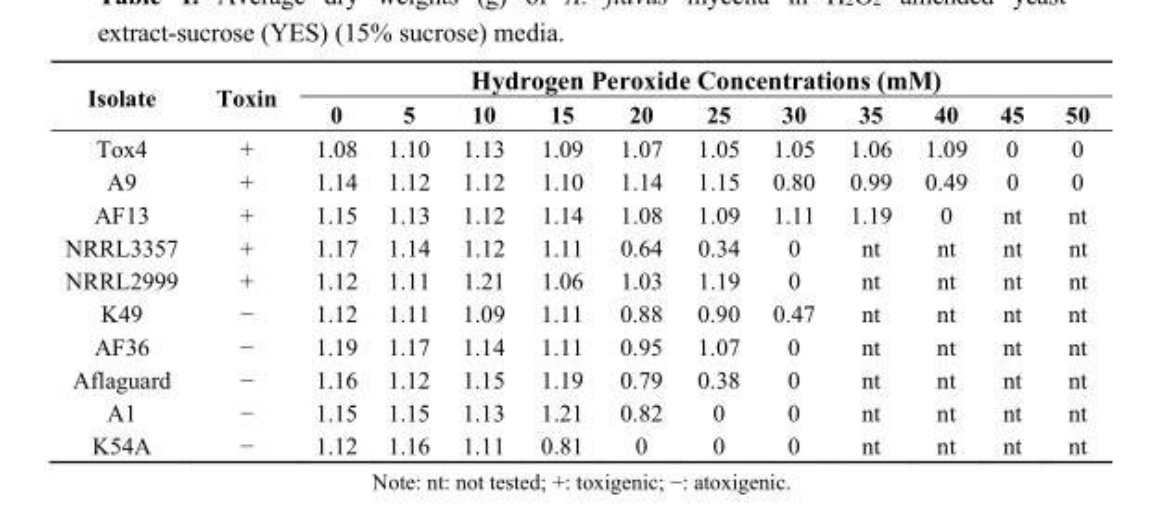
<table><thead><tr><td rowspan="2">Isolate</td><td rowspan="2">Toxin</td><td colspan="11">Hydrogen Peroxide Concentrations (mM)</td></tr><tr><td>0</td><td>5</td><td>10</td><td>15</td><td>20</td><td>25</td><td>30</td><td>35</td><td>40</td><td>45</td><td>50</td></tr></thead><tbody><tr><td>Tox4</td><td>+</td><td>1.08</td><td>1.10</td><td>1.13</td><td>1.09</td><td>1.07</td><td>1.05</td><td>1.05</td><td>1.06</td><td>1.09</td><td>0</td><td>0</td></tr><tr><td>A9</td><td>+</td><td>1.14</td><td>1.12</td><td>1.12</td><td>1.10</td><td>1.14</td><td>1.15</td><td>0.80</td><td>0.99</td><td>0.49</td><td>0</td><td>0</td></tr><tr><td>AF13</td><td>+</td><td>1.15</td><td>1.13</td><td>1.12</td><td>1.14</td><td>1.08</td><td>1.09</td><td>1.11</td><td>1.19</td><td>0</td><td>nt</td><td>nt</td></tr><tr><td>NRRL3357</td><td>+</td><td>1.17</td><td>1.14</td><td>1.12</td><td>1.11</td><td>0.64</td><td>0.34</td><td>0</td><td>nt</td><td>nt</td><td>nt</td><td>nt</td></tr><tr><td>NRRL2999</td><td>+</td><td>1.12</td><td>1.11</td><td>1.21</td><td>1.06</td><td>1.03</td><td>1.19</td><td>0</td><td>nt</td><td>nt</td><td>nt</td><td>nt</td></tr><tr><td>K49</td><td>−</td><td>1.12</td><td>1.11</td><td>1.09</td><td>1.11</td><td>0.88</td><td>0.90</td><td>0.47</td><td>nt</td><td>nt</td><td>nt</td><td>nt</td></tr><tr><td>AF36</td><td>−</td><td>1.19</td><td>1.17</td><td>1.14</td><td>1.11</td><td>0.95</td><td>1.07</td><td>0</td><td>nt</td><td>nt</td><td>nt</td><td>nt</td></tr><tr><td>Aflaguard</td><td>−</td><td>1.16</td><td>1.12</td><td>1.15</td><td>1.19</td><td>0.79</td><td>0.38</td><td>0</td><td>nt</td><td>nt</td><td>nt</td><td>nt</td></tr><tr><td>A1</td><td>−</td><td>1.15</td><td>1.15</td><td>1.13</td><td>1.21</td><td>0.82</td><td>0</td><td>0</td><td>nt</td><td>nt</td><td>nt</td><td>nt</td></tr><tr><td>K54A</td><td>−</td><td>1.12</td><td>1.16</td><td>1.11</td><td>0.81</td><td>0</td><td>0</td><td>0</td><td>nt</td><td>nt</td><td>nt</td><td>nt</td></tr></tbody></table>